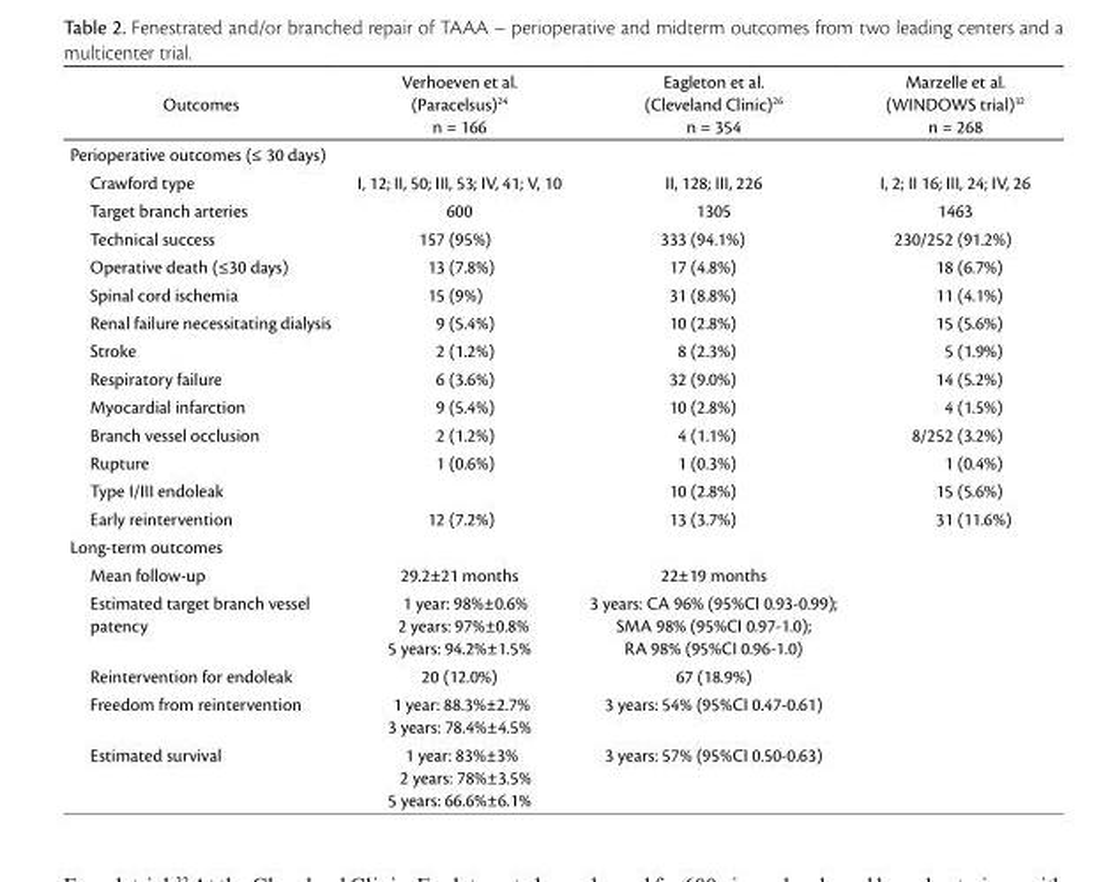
<table><thead><tr><td>Outcomes</td><td>Verhoeven et al. (Paracelsus)<sup>24</sup> n = 166</td><td>Eagleton et al. (Cleveland Clinic)<sup>26</sup> n = 354</td><td>Marzelle et al. (WINDOWS trial)<sup>32</sup> n = 268</td></tr></thead><tbody><tr><td colspan="4">Perioperative outcomes (≤ 30 days)</td></tr><tr><td>Crawford type</td><td>I, 12; II, 50; III, 53; IV, 41; V, 10</td><td>II, 128; III, 226</td><td>I, 2; II 16; III, 24; IV, 26</td></tr><tr><td>Target branch arteries</td><td>600</td><td>1305</td><td>1463</td></tr><tr><td>Technical success</td><td>157 (95%)</td><td>333 (94.1%)</td><td>230/252 (91.2%)</td></tr><tr><td>Operative death (≤30 days)</td><td>13 (7.8%)</td><td>17 (4.8%)</td><td>18 (6.7%)</td></tr><tr><td>Spinal cord ischemia</td><td>15 (9%)</td><td>31 (8.8%)</td><td>11 (4.1%)</td></tr><tr><td>Renal failure necessitating dialysis</td><td>9 (5.4%)</td><td>10 (2.8%)</td><td>15 (5.6%)</td></tr><tr><td>Stroke</td><td>2 (1.2%)</td><td>8 (2.3%)</td><td>5 (1.9%)</td></tr><tr><td>Respiratory failure</td><td>6 (3.6%)</td><td>32 (9.0%)</td><td>14 (5.2%)</td></tr><tr><td>Myocardial infarction</td><td>9 (5.4%)</td><td>10 (2.8%)</td><td>4 (1.5%)</td></tr><tr><td>Branch vessel occlusion</td><td>2 (1.2%)</td><td>4 (1.1%)</td><td>8/252 (3.2%)</td></tr><tr><td>Rupture</td><td>1 (0.6%)</td><td>1 (0.3%)</td><td>1 (0.4%)</td></tr><tr><td>Type I/III endoleak</td><td></td><td>10 (2.8%)</td><td>15 (5.6%)</td></tr><tr><td>Early reintervention</td><td>12 (7.2%)</td><td>13 (3.7%)</td><td>31 (11.6%)</td></tr><tr><td colspan="4">Long-term outcomes</td></tr><tr><td>Mean follow-up</td><td>29.2±21 months</td><td>22±19 months</td><td></td></tr><tr><td>Estimated target branch vessel patency</td><td>1 year: 98%±0.6% 2 years: 97%±0.8% 5 years: 94.2%±1.5%</td><td>3 years: CA 96% (95%CI 0.93-0.99); SMA 98% (95%CI 0.97-1.0); RA 98% (95%CI 0.96-1.0)</td><td></td></tr><tr><td>Reintervention for endoleak</td><td>20 (12.0%)</td><td>67 (18.9%)</td><td></td></tr><tr><td>Freedom from reintervention</td><td>1 year: 88.3%±2.7% 3 years: 78.4%±4.5%</td><td>3 years: 54% (95%CI 0.47-0.61)</td><td></td></tr><tr><td>Estimated survival</td><td>1 year: 83%±3% 2 years: 78%±3.5% 5 years: 66.6%±6.1%</td><td>3 years: 57% (95%CI 0.50-0.63)</td><td></td></tr></tbody></table>